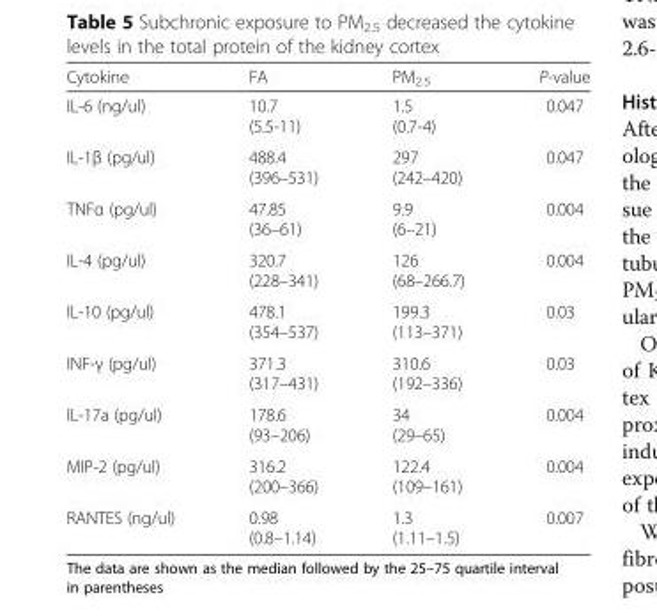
<table><thead><tr><td>Cytokine</td><td>FA</td><td>PM<sub>2.5</sub></td><td>P-value</td></tr></thead><tbody><tr><td>IL-6 (ng/ul)</td><td>10.7 (5.5-11)</td><td>1.5 (0.7-4)</td><td>0.047</td></tr><tr><td>IL-1β (pg/ul)</td><td>488.4 (396–531)</td><td>297 (242–420)</td><td>0.047</td></tr><tr><td>TNFα (pg/ul)</td><td>47.85 (36–61)</td><td>9.9 (6–21)</td><td>0.004</td></tr><tr><td>IL-4 (pg/ul)</td><td>320.7 (228–341)</td><td>126 (68–266.7)</td><td>0.004</td></tr><tr><td>IL-10 (pg/ul)</td><td>478.1 (354–537)</td><td>199.3 (113–371)</td><td>0.03</td></tr><tr><td>INF-γ (pg/ul)</td><td>371.3 (317–431)</td><td>310.6 (192–336)</td><td>0.03</td></tr><tr><td>IL-17a (pg/ul)</td><td>178.6 (93–206)</td><td>34 (29–65)</td><td>0.004</td></tr><tr><td>MIP-2 (pg/ul)</td><td>316.2 (200–366)</td><td>122.4 (109–161)</td><td>0.004</td></tr><tr><td>RANTES (ng/ul)</td><td>0.98 (0.8–1.14)</td><td>1.3 (1.11–1.5)</td><td>0.007</td></tr></tbody></table>